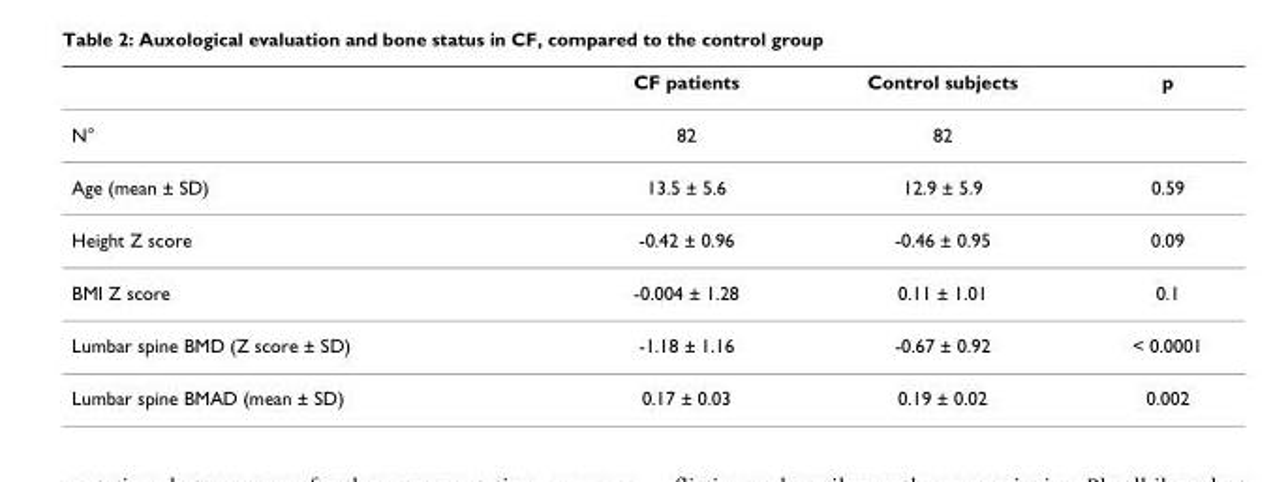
<table><thead><tr><td></td><td>CF patients</td><td>Control subjects</td><td>p</td></tr></thead><tbody><tr><td>N°</td><td>82</td><td>82</td><td></td></tr><tr><td>Age (mean ± SD)</td><td>13.5 ± 5.6</td><td>12.9 ± 5.9</td><td>0.59</td></tr><tr><td>Height Z score</td><td>-0.42 ± 0.96</td><td>-0.46 ± 0.95</td><td>0.09</td></tr><tr><td>BMI Z score</td><td>-0.004 ± 1.28</td><td>0.11 ± 1.01</td><td>0.1</td></tr><tr><td>Lumbar spine BMD (Z score ± SD)</td><td>-1.18 ± 1.16</td><td>-0.67 ± 0.92</td><td>&lt; 0.0001</td></tr><tr><td>Lumbar spine BMAD (mean ± SD)</td><td>0.17 ± 0.03</td><td>0.19 ± 0.02</td><td>0.002</td></tr></tbody></table>